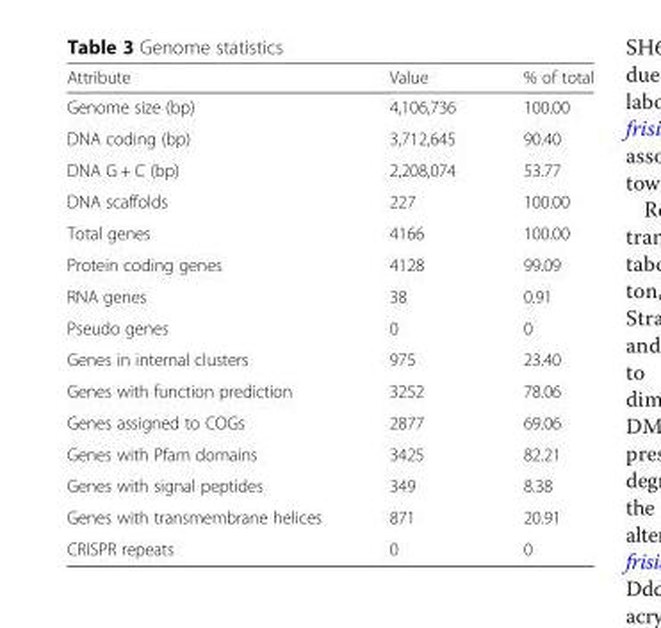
<table><thead><tr><td>Attribute</td><td>Value</td><td>% of total</td></tr></thead><tbody><tr><td>Genome size (bp)</td><td>4,106,736</td><td>100.00</td></tr><tr><td>DNA coding (bp)</td><td>3,712,645</td><td>90.40</td></tr><tr><td>DNA G + C (bp)</td><td>2,208,074</td><td>53.77</td></tr><tr><td>DNA scaffolds</td><td>227</td><td>100.00</td></tr><tr><td>Total genes</td><td>4166</td><td>100.00</td></tr><tr><td>Protein coding genes</td><td>4128</td><td>99.09</td></tr><tr><td>RNA genes</td><td>38</td><td>0.91</td></tr><tr><td>Pseudo genes</td><td>0</td><td>0</td></tr><tr><td>Genes in internal clusters</td><td>975</td><td>23.40</td></tr><tr><td>Genes with function prediction</td><td>3252</td><td>78.06</td></tr><tr><td>Genes assigned to COGs</td><td>2877</td><td>69.06</td></tr><tr><td>Genes with Pfam domains</td><td>3425</td><td>82.21</td></tr><tr><td>Genes with signal peptides</td><td>349</td><td>8.38</td></tr><tr><td>Genes with transmembrane helices</td><td>871</td><td>20.91</td></tr><tr><td>CRISPR repeats</td><td>0</td><td>0</td></tr></tbody></table>